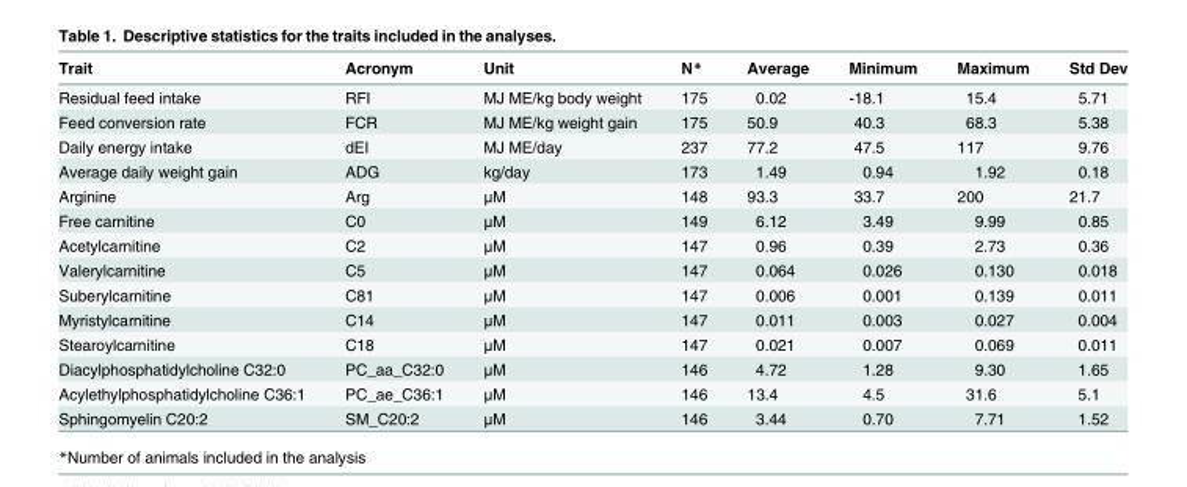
<table><thead><tr><td>Trait</td><td>Acronym</td><td>Unit</td><td>N*</td><td>Average</td><td>Minimum</td><td>Maximum</td><td>Std Dev</td></tr></thead><tbody><tr><td>Residual feed intake</td><td>RFI</td><td>MJ ME/kg body weight</td><td>175</td><td>0.02</td><td>-18.1</td><td>15.4</td><td>5.71</td></tr><tr><td>Feed conversion rate</td><td>FCR</td><td>MJ ME/kg weight gain</td><td>175</td><td>50.9</td><td>40.3</td><td>68.3</td><td>5.38</td></tr><tr><td>Daily energy intake</td><td>dEI</td><td>MJ ME/day</td><td>237</td><td>77.2</td><td>47.5</td><td>117</td><td>9.76</td></tr><tr><td>Average daily weight gain</td><td>ADG</td><td>kg/day</td><td>173</td><td>1.49</td><td>0.94</td><td>1.92</td><td>0.18</td></tr><tr><td>Arginine</td><td>Arg</td><td>μM</td><td>148</td><td>93.3</td><td>33.7</td><td>200</td><td>21.7</td></tr><tr><td>Free carnitine</td><td>C0</td><td>μM</td><td>149</td><td>6.12</td><td>3.49</td><td>9.99</td><td>0.85</td></tr><tr><td>Acetylcarnitine</td><td>C2</td><td>μM</td><td>147</td><td>0.96</td><td>0.39</td><td>2.73</td><td>0.36</td></tr><tr><td>Valerylcarnitine</td><td>C5</td><td>μM</td><td>147</td><td>0.064</td><td>0.026</td><td>0.130</td><td>0.018</td></tr><tr><td>Suberylcarnitine</td><td>C81</td><td>μM</td><td>147</td><td>0.006</td><td>0.001</td><td>0.139</td><td>0.011</td></tr><tr><td>Myristylcarnitine</td><td>C14</td><td>μM</td><td>147</td><td>0.011</td><td>0.003</td><td>0.027</td><td>0.004</td></tr><tr><td>Stearoylcarnitine</td><td>C18</td><td>μM</td><td>147</td><td>0.021</td><td>0.007</td><td>0.069</td><td>0.011</td></tr><tr><td>Diacylphosphatidylcholine C32:0</td><td>PC_aa_C32:0</td><td>μM</td><td>146</td><td>4.72</td><td>1.28</td><td>9.30</td><td>1.65</td></tr><tr><td>Acylethylphosphatidylcholine C36:1</td><td>PC_ae_C36:1</td><td>μM</td><td>146</td><td>13.4</td><td>4.5</td><td>31.6</td><td>5.1</td></tr><tr><td>Sphingomyelin C20:2</td><td>SM_C20:2</td><td>μM</td><td>146</td><td>3.44</td><td>0.70</td><td>7.71</td><td>1.52</td></tr></tbody></table>